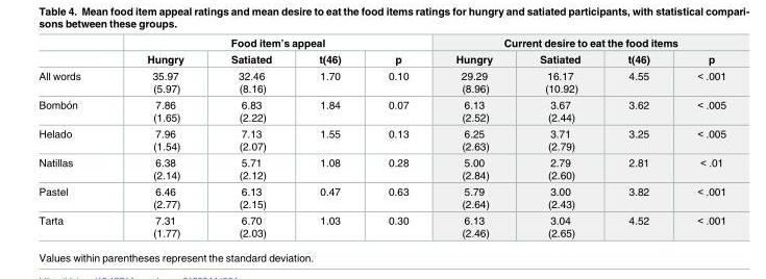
<table><thead><tr><td rowspan="2"></td><td colspan="4">Food item’s appeal</td><td colspan="4">Current desire to eat the food items</td></tr><tr><td>Hungry</td><td>Satiated</td><td>t(46)</td><td>p</td><td>Hungry</td><td>Satiated</td><td>t(46)</td><td>p</td></tr></thead><tbody><tr><td>All words</td><td>35.97 (5.97)</td><td>32.46 (8.16)</td><td>1.70</td><td>0.10</td><td>29.29 (8.96)</td><td>16.17 (10.92)</td><td>4.55</td><td>&lt; .001</td></tr><tr><td>Bombo´n</td><td>7.86 (1.65)</td><td>6.83 (2.22)</td><td>1.84</td><td>0.07</td><td>6.13 (2.52)</td><td>3.67 (2.44)</td><td>3.62</td><td>&lt; .005</td></tr><tr><td>Helado</td><td>7.96 (1.54)</td><td>7.13 (2.07)</td><td>1.55</td><td>0.13</td><td>6.25 (2.63)</td><td>3.71 (2.79)</td><td>3.25</td><td>&lt; .005</td></tr><tr><td>Natillas</td><td>6.38 (2.14)</td><td>5.71 (2.12)</td><td>1.08</td><td>0.28</td><td>5.00 (2.84)</td><td>2.79 (2.60)</td><td>2.81</td><td>&lt; .01</td></tr><tr><td>Pastel</td><td>6.46 (2.77)</td><td>6.13 (2.15)</td><td>0.47</td><td>0.63</td><td>5.79 (2.64)</td><td>3.00 (2.43)</td><td>3.82</td><td>&lt; .001</td></tr><tr><td>Tarta</td><td>7.31 (1.77)</td><td>6.70 (2.03)</td><td>1.03</td><td>0.30</td><td>6.13 (2.46)</td><td>3.04 (2.65)</td><td>4.52</td><td>&lt; .001</td></tr></tbody></table>